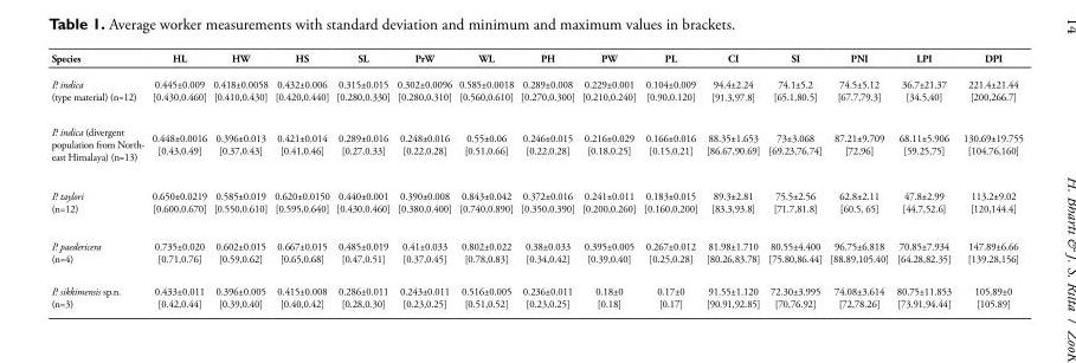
<table><thead><tr><td>Species</td><td>HL</td><td>HW</td><td>HS</td><td>SL</td><td>PrW</td><td>WL</td><td>PH</td><td>PW</td><td>PL</td><td>CI</td><td>SI</td><td>PNI</td><td>LPI</td><td>DPI</td></tr></thead><tbody><tr><td>P. indica (type material) (n=12)</td><td>0.445±0.009 [0.430,0.460]</td><td>0.418±0.0058 [0.410,0.430]</td><td>0.432±0.006 [0.420,0.440]</td><td>0.315±0.015 [0.280,0.330]</td><td>0.302±0.0096 [0.280,0.310]</td><td>0.585±0.0018 [0.560,0.610]</td><td>0.289±0.008 [0.270,0.300]</td><td>0.229±0.001 [0.210,0.240]</td><td>0.104±0.009 [0.90,0.120]</td><td>94.4±2.24 [91.3,97.8]</td><td>74.1±5.2 [65.1,80.5]</td><td>74.5±5.12 [67.7,79.3]</td><td>36.7±21.37 [34.5,40]</td><td>221.4±21.44 [200,266.7]</td></tr><tr><td>P. indica (divergent population from North- east Himalaya) (n=13)</td><td>0.448±0.0016 [0.43,0.49]</td><td>0.396±0.013 [0.37,0.43]</td><td>0.421±0.014 [0.41,0.46]</td><td>0.289±0.016 [0.27,0.33]</td><td>0.248±0.016 [0.22,0.28]</td><td>0.55±0.06 [0.51,0.66]</td><td>0.246±0.015 [0.22,0.28]</td><td>0.216±0.029 [0.18,0.25]</td><td>0.166±0.016 [0.15,0.21]</td><td>88.35±1.653 [86.67,90.69]</td><td>73±3.068 [69.23,76.74]</td><td>87.21±9.709 [72,96]</td><td>68.11±5.906 [59.25,75]</td><td>130.69±19.755 [104.76,160]</td></tr><tr><td>P. taylori (n=12)</td><td>0.650±0.0219 [0.600,0.670]</td><td>0.585±0.019 [0.550,0.610]</td><td>0.620±0.0150 [0.595,0.640]</td><td>0.440±0.001 [0.430,0.460]</td><td>0.390±0.008 [0.380,0.400]</td><td>0.843±0.042 [0.740,0.890]</td><td>0.372±0.016 [0.350,0.390]</td><td>0.241±0.011 [0.200,0.260]</td><td>0.183±0.015 [0.160,0.200]</td><td>89.3±2.81 [83.3,93.8]</td><td>75.5±2.56 [71.7,81.8]</td><td>62.8±2.11 [60.5, 65]</td><td>47.8±2.99 [44.7,52.6]</td><td>113.2±9.02 [120,144.4]</td></tr><tr><td>P. paedericera (n=4)</td><td>0.735±0.020 [0.71,0.76]</td><td>0.602±0.015 [0.59,0.62]</td><td>0.667±0.015 [0.65,0.68]</td><td>0.485±0.019 [0.47,0.51]</td><td>0.41±0.033 [0.37,0.45]</td><td>0.802±0.022 [0.78,0.83]</td><td>0.38±0.033 [0.34,0.42]</td><td>0.395±0.005 [0.39,0.40]</td><td>0.267±0.012 [0.25,0.28]</td><td>81.98±1.710 [80.26,83.78]</td><td>80.55±4.400 [75.80,86.44]</td><td>96.75±6.818 [88.89,105.40]</td><td>70.85±7.934 [64.28,82.35]</td><td>147.89±6.66 [139.28,156]</td></tr><tr><td>P. sikkimensis sp.n. (n=3)</td><td>0.433±0.011 [0.42,0.44]</td><td>0.396±0.005 [0.39,0.40]</td><td>0.415±0.008 [0.40,0.42]</td><td>0.286±0.011 [0.28,0.30]</td><td>0.243±0.011 [0.23,0.25]</td><td>0.516±0.005 [0.51,0.52]</td><td>0.236±0.011 [0.23,0.25]</td><td>0.18±0 [0.18]</td><td>0.17±0 [0.17]</td><td>91.55±1.120 [90.91,92.85]</td><td>72.30±3.995 [70,76.92]</td><td>74.08±3.614 [72,78.26]</td><td>80.75±11.853 [73.91,94.44]</td><td>105.89±0 [105.89]</td></tr></tbody></table>